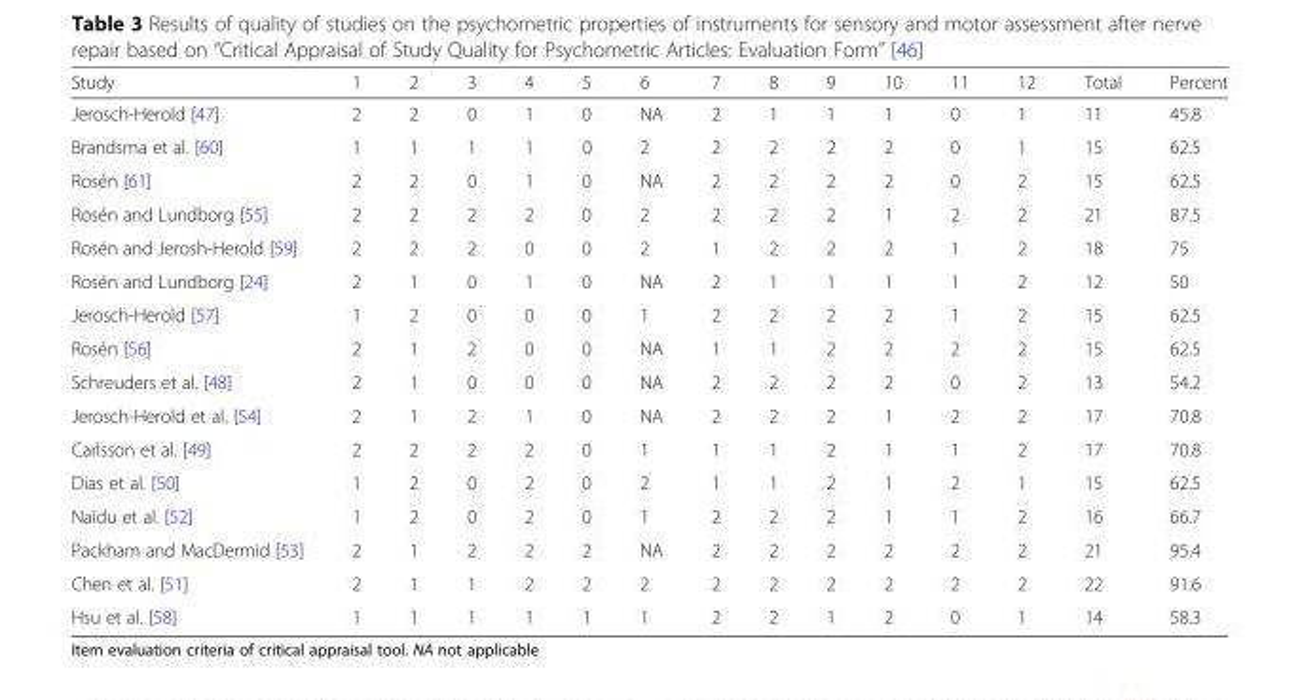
<table><thead><tr><td>Study</td><td>1</td><td>2</td><td>3</td><td>4</td><td>5</td><td>6</td><td>7</td><td>8</td><td>9</td><td>10</td><td>11</td><td>12</td><td>Total</td><td>Percent</td></tr></thead><tbody><tr><td>Jerosch-Herold [47]</td><td>2</td><td>2</td><td>0</td><td>1</td><td>0</td><td>NA</td><td>2</td><td>1</td><td>1</td><td>1</td><td>0</td><td>1</td><td>11</td><td>45.8</td></tr><tr><td>Brandsma et al. [60]</td><td>1</td><td>1</td><td>1</td><td>1</td><td>0</td><td>2</td><td>2</td><td>2</td><td>2</td><td>2</td><td>0</td><td>1</td><td>15</td><td>62.5</td></tr><tr><td>Rosén [61]</td><td>2</td><td>2</td><td>0</td><td>1</td><td>0</td><td>NA</td><td>2</td><td>2</td><td>2</td><td>2</td><td>0</td><td>2</td><td>15</td><td>62.5</td></tr><tr><td>Rosén and Lundborg [55]</td><td>2</td><td>2</td><td>2</td><td>2</td><td>0</td><td>2</td><td>2</td><td>2</td><td>2</td><td>1</td><td>2</td><td>2</td><td>21</td><td>87.5</td></tr><tr><td>Rosén and Jerosh-Herold [59]</td><td>2</td><td>2</td><td>2</td><td>0</td><td>0</td><td>2</td><td>1</td><td>2</td><td>2</td><td>2</td><td>1</td><td>2</td><td>18</td><td>75</td></tr><tr><td>Rosén and Lundborg [24]</td><td>2</td><td>1</td><td>0</td><td>1</td><td>0</td><td>NA</td><td>2</td><td>1</td><td>1</td><td>1</td><td>1</td><td>2</td><td>12</td><td>50</td></tr><tr><td>Jerosch-Herold [57]</td><td>1</td><td>2</td><td>0</td><td>0</td><td>0</td><td>1</td><td>2</td><td>2</td><td>2</td><td>2</td><td>1</td><td>2</td><td>15</td><td>62.5</td></tr><tr><td>Rosén [56]</td><td>2</td><td>1</td><td>2</td><td>0</td><td>0</td><td>NA</td><td>1</td><td>1</td><td>2</td><td>2</td><td>2</td><td>2</td><td>15</td><td>62.5</td></tr><tr><td>Schreuders et al. [48]</td><td>2</td><td>1</td><td>0</td><td>0</td><td>0</td><td>NA</td><td>2</td><td>2</td><td>2</td><td>2</td><td>0</td><td>2</td><td>13</td><td>54.2</td></tr><tr><td>Jerosch-Herold et al. [54]</td><td>2</td><td>1</td><td>2</td><td>1</td><td>0</td><td>NA</td><td>2</td><td>2</td><td>2</td><td>1</td><td>2</td><td>2</td><td>17</td><td>70.8</td></tr><tr><td>Carlsson et al. [49]</td><td>2</td><td>2</td><td>2</td><td>2</td><td>0</td><td>1</td><td>1</td><td>1</td><td>2</td><td>1</td><td>1</td><td>2</td><td>17</td><td>70.8</td></tr><tr><td>Dias et al. [50]</td><td>1</td><td>2</td><td>0</td><td>2</td><td>0</td><td>2</td><td>1</td><td>1</td><td>2</td><td>1</td><td>2</td><td>1</td><td>15</td><td>62.5</td></tr><tr><td>Naidu et al. [52]</td><td>1</td><td>2</td><td>0</td><td>2</td><td>0</td><td>1</td><td>2</td><td>2</td><td>2</td><td>1</td><td>1</td><td>2</td><td>16</td><td>66.7</td></tr><tr><td>Packham and MacDermid [53]</td><td>2</td><td>1</td><td>2</td><td>2</td><td>2</td><td>NA</td><td>2</td><td>2</td><td>2</td><td>2</td><td>2</td><td>2</td><td>21</td><td>95.4</td></tr><tr><td>Chen et al. [51]</td><td>2</td><td>1</td><td>1</td><td>2</td><td>2</td><td>2</td><td>2</td><td>2</td><td>2</td><td>2</td><td>2</td><td>2</td><td>22</td><td>91.6</td></tr><tr><td>Hsu et al. [58]</td><td>1</td><td>1</td><td>1</td><td>1</td><td>1</td><td>1</td><td>2</td><td>2</td><td>1</td><td>2</td><td>0</td><td>1</td><td>14</td><td>58.3</td></tr></tbody></table>